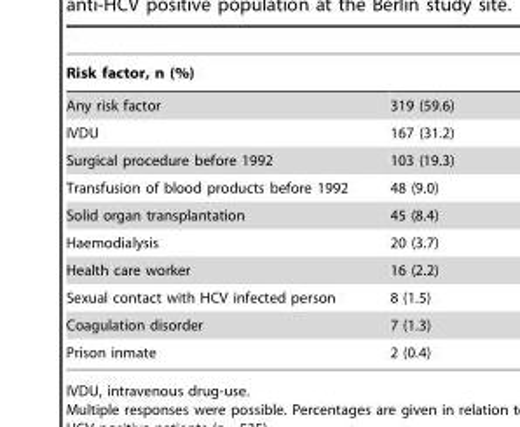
<table><thead><tr><td>Risk factor, n (%)</td><td></td></tr></thead><tbody><tr><td>Any risk factor</td><td>319 (59.6)</td></tr><tr><td>IVDU</td><td>167 (31.2)</td></tr><tr><td>Surgical procedure before 1992</td><td>103 (19.3)</td></tr><tr><td>Transfusion of blood products before 1992</td><td>48 (9.0)</td></tr><tr><td>Solid organ transplantation</td><td>45 (8.4)</td></tr><tr><td>Haemodialysis</td><td>20 (3.7)</td></tr><tr><td>Health care worker</td><td>16 (2.2)</td></tr><tr><td>Sexual contact with HCV infected person</td><td>8 (1.5)</td></tr><tr><td>Coagulation disorder</td><td>7 (1.3)</td></tr><tr><td>Prison inmate</td><td>2 (0.4)</td></tr></tbody></table>